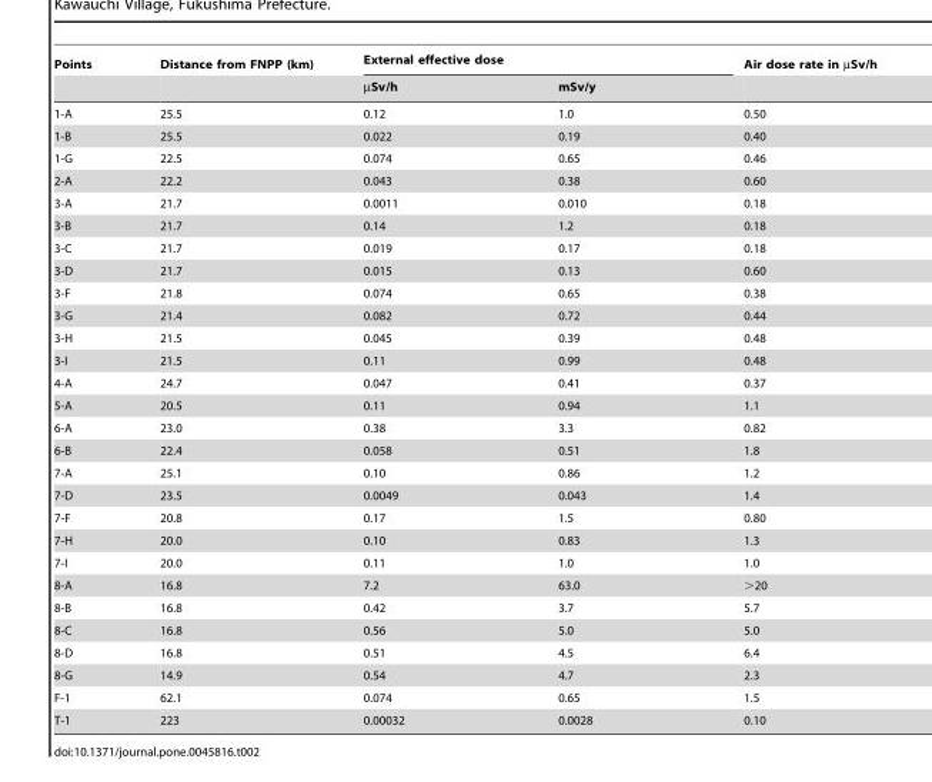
<table><thead><tr><td rowspan="2">Points</td><td rowspan="2">Distance from FNPP (km)</td><td colspan="2">External effective dose</td><td rowspan="2">Air dose rate in µSv/h</td></tr><tr><td>µSv/h</td><td>mSv/y</td></tr></thead><tbody><tr><td>1-A</td><td>25.5</td><td>0.12</td><td>1.0</td><td>0.50</td></tr><tr><td>1-B</td><td>25.5</td><td>0.022</td><td>0.19</td><td>0.40</td></tr><tr><td>1-G</td><td>22.5</td><td>0.074</td><td>0.65</td><td>0.46</td></tr><tr><td>2-A</td><td>22.2</td><td>0.043</td><td>0.38</td><td>0.60</td></tr><tr><td>3-A</td><td>21.7</td><td>0.0011</td><td>0.010</td><td>0.18</td></tr><tr><td>3-B</td><td>21.7</td><td>0.14</td><td>1.2</td><td>0.18</td></tr><tr><td>3-C</td><td>21.7</td><td>0.019</td><td>0.17</td><td>0.18</td></tr><tr><td>3-D</td><td>21.7</td><td>0.015</td><td>0.13</td><td>0.60</td></tr><tr><td>3-F</td><td>21.8</td><td>0.074</td><td>0.65</td><td>0.38</td></tr><tr><td>3-G</td><td>21.4</td><td>0.082</td><td>0.72</td><td>0.44</td></tr><tr><td>3-H</td><td>21.5</td><td>0.045</td><td>0.39</td><td>0.48</td></tr><tr><td>3-I</td><td>21.5</td><td>0.11</td><td>0.99</td><td>0.48</td></tr><tr><td>4-A</td><td>24.7</td><td>0.047</td><td>0.41</td><td>0.37</td></tr><tr><td>5-A</td><td>20.5</td><td>0.11</td><td>0.94</td><td>1.1</td></tr><tr><td>6-A</td><td>23.0</td><td>0.38</td><td>3.3</td><td>0.82</td></tr><tr><td>6-B</td><td>22.4</td><td>0.058</td><td>0.51</td><td>1.8</td></tr><tr><td>7-A</td><td>25.1</td><td>0.10</td><td>0.86</td><td>1.2</td></tr><tr><td>7-D</td><td>23.5</td><td>0.0049</td><td>0.043</td><td>1.4</td></tr><tr><td>7-F</td><td>20.8</td><td>0.17</td><td>1.5</td><td>0.80</td></tr><tr><td>7-H</td><td>20.0</td><td>0.10</td><td>0.83</td><td>1.3</td></tr><tr><td>7-I</td><td>20.0</td><td>0.11</td><td>1.0</td><td>1.0</td></tr><tr><td>8-A</td><td>16.8</td><td>7.2</td><td>63.0</td><td>&gt;20</td></tr><tr><td>8-B</td><td>16.8</td><td>0.42</td><td>3.7</td><td>5.7</td></tr><tr><td>8-C</td><td>16.8</td><td>0.56</td><td>5.0</td><td>5.0</td></tr><tr><td>8-D</td><td>16.8</td><td>0.51</td><td>4.5</td><td>6.4</td></tr><tr><td>8-G</td><td>14.9</td><td>0.54</td><td>4.7</td><td>2.3</td></tr><tr><td>F-1</td><td>62.1</td><td>0.074</td><td>0.65</td><td>1.5</td></tr><tr><td>T-1</td><td>223</td><td>0.00032</td><td>0.0028</td><td>0.10</td></tr></tbody></table>